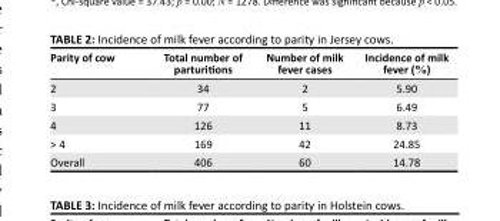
<table><thead><tr><td>Parity of cow</td><td>Total number of parturitions</td><td>Number of milk fever cases</td><td>Incidence of milk fever (%)</td></tr></thead><tbody><tr><td>2</td><td>34</td><td>2</td><td>5.90</td></tr><tr><td>3</td><td>77</td><td>5</td><td>6.49</td></tr><tr><td>4</td><td>126</td><td>11</td><td>8.73</td></tr><tr><td>&gt; 4</td><td>169</td><td>42</td><td>24.85</td></tr><tr><td>Overall</td><td>406</td><td>60</td><td>14.78</td></tr></tbody></table>